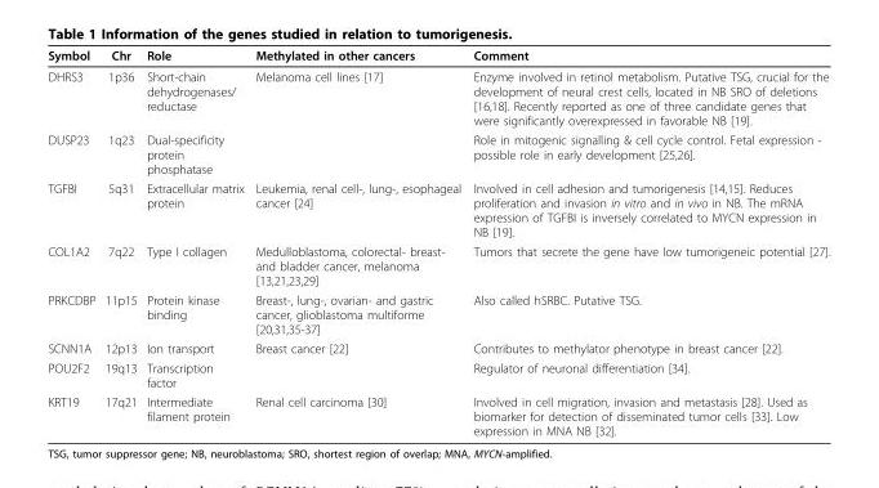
<table><thead><tr><td>Symbol</td><td>Chr</td><td>Role</td><td>Methylated in other cancers</td><td>Comment</td></tr></thead><tbody><tr><td>DHRS3</td><td>1p36</td><td>Short-chain dehydrogenases/ reductase</td><td>Melanoma cell lines [17]</td><td>Enzyme involved in retinol metabolism. Putative TSG, crucial for the development of neural crest cells, located in NB SRO of deletions [16,18]. Recently reported as one of three candidate genes that were significantly overexpressed in favorable NB [19].</td></tr><tr><td>DUSP23</td><td>1q23</td><td>Dual-specificity protein phosphatase</td><td></td><td>Role in mitogenic signalling &amp; cell cycle control. Fetal expression - possible role in early development [25,26].</td></tr><tr><td>TGFBI</td><td>5q31</td><td>Extracellular matrix protein</td><td>Leukemia, renal cell-, lung-, esophageal cancer [24]</td><td>Involved in cell adhesion and tumorigenesis [14,15]. Reduces proliferation and invasion in vitro and in vivo in NB. The mRNA expression of TGFBI is inversely correlated to MYCN expression in NB [19].</td></tr><tr><td>COL1A2</td><td>7q22</td><td>Type I collagen</td><td>Medulloblastoma, colorectal- breast- and bladder cancer, melanoma [13,21,23,29]</td><td>Tumors that secrete the gene have low tumorigeneic potential [27].</td></tr><tr><td>PRKCDBP</td><td>11p15</td><td>Protein kinase binding</td><td>Breast-, lung-, ovarian- and gastric cancer, glioblastoma multiforme [20,31,35-37]</td><td>Also called hSRBC. Putative TSG.</td></tr><tr><td>SCNN1A</td><td>12p13</td><td>Ion transport</td><td>Breast cancer [22]</td><td>Contributes to methylator phenotype in breast cancer [22].</td></tr><tr><td>POU2F2</td><td>19q13</td><td>Transcription factor</td><td></td><td>Regulator of neuronal differentiation [34].</td></tr><tr><td>KRT19</td><td>17q21</td><td>Intermediate filament protein</td><td>Renal cell carcinoma [30]</td><td>Involved in cell migration, invasion and metastasis [28]. Used as biomarker for detection of disseminated tumor cells [33]. Low expression in MNA NB [32].</td></tr></tbody></table>